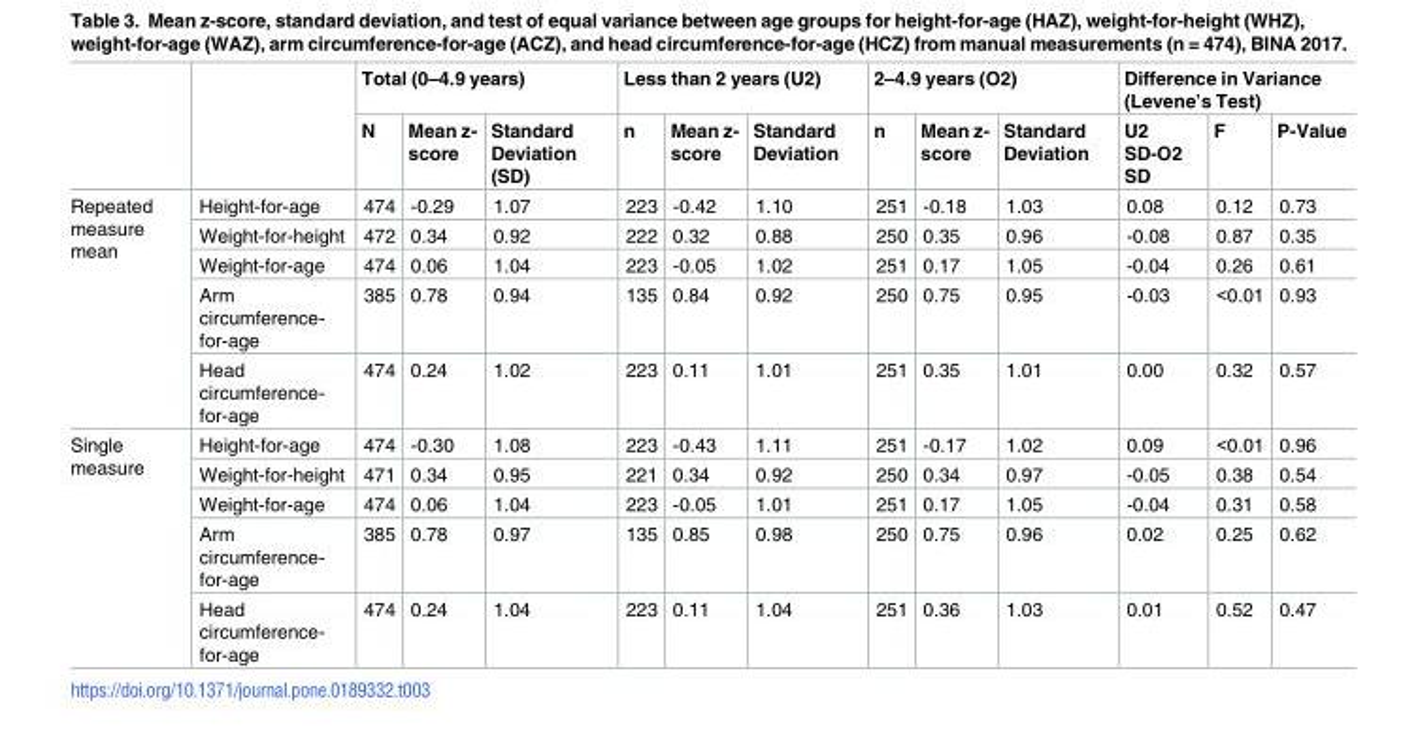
<table><thead><tr><td rowspan="2"></td><td rowspan="2"></td><td colspan="3">Total (0–4.9 years)</td><td colspan="3">Less than 2 years (U2)</td><td colspan="3">2–4.9 years (O2)</td><td colspan="3">Difference in Variance (Levene’s Test)</td></tr><tr><td>N</td><td>Mean z- score</td><td>Standard Deviation (SD)</td><td>n</td><td>Mean z- score</td><td>Standard Deviation</td><td>n</td><td>Mean z- score</td><td>Standard Deviation</td><td>U2 SD-O2 SD</td><td>F</td><td>P-Value</td></tr></thead><tbody><tr><td rowspan="5">Repeated measure mean</td><td>Height-for-age</td><td>474</td><td>-0.29</td><td>1.07</td><td>223</td><td>-0.42</td><td>1.10</td><td>251</td><td>-0.18</td><td>1.03</td><td>0.08</td><td>0.12</td><td>0.73</td></tr><tr><td>Weight-for-height</td><td>472</td><td>0.34</td><td>0.92</td><td>222</td><td>0.32</td><td>0.88</td><td>250</td><td>0.35</td><td>0.96</td><td>-0.08</td><td>0.87</td><td>0.35</td></tr><tr><td>Weight-for-age</td><td>474</td><td>0.06</td><td>1.04</td><td>223</td><td>-0.05</td><td>1.02</td><td>251</td><td>0.17</td><td>1.05</td><td>-0.04</td><td>0.26</td><td>0.61</td></tr><tr><td>Arm circumference- for-age</td><td>385</td><td>0.78</td><td>0.94</td><td>135</td><td>0.84</td><td>0.92</td><td>250</td><td>0.75</td><td>0.95</td><td>-0.03</td><td>&lt;0.01</td><td>0.93</td></tr><tr><td>Head circumference- for-age</td><td>474</td><td>0.24</td><td>1.02</td><td>223</td><td>0.11</td><td>1.01</td><td>251</td><td>0.35</td><td>1.01</td><td>0.00</td><td>0.32</td><td>0.57</td></tr><tr><td rowspan="5">Single measure</td><td>Height-for-age</td><td>474</td><td>-0.30</td><td>1.08</td><td>223</td><td>-0.43</td><td>1.11</td><td>251</td><td>-0.17</td><td>1.02</td><td>0.09</td><td>&lt;0.01</td><td>0.96</td></tr><tr><td>Weight-for-height</td><td>471</td><td>0.34</td><td>0.95</td><td>221</td><td>0.34</td><td>0.92</td><td>250</td><td>0.34</td><td>0.97</td><td>-0.05</td><td>0.38</td><td>0.54</td></tr><tr><td>Weight-for-age</td><td>474</td><td>0.06</td><td>1.04</td><td>223</td><td>-0.05</td><td>1.01</td><td>251</td><td>0.17</td><td>1.05</td><td>-0.04</td><td>0.31</td><td>0.58</td></tr><tr><td>Arm circumference- for-age</td><td>385</td><td>0.78</td><td>0.97</td><td>135</td><td>0.85</td><td>0.98</td><td>250</td><td>0.75</td><td>0.96</td><td>0.02</td><td>0.25</td><td>0.62</td></tr><tr><td>Head circumference- for-age</td><td>474</td><td>0.24</td><td>1.04</td><td>223</td><td>0.11</td><td>1.04</td><td>251</td><td>0.36</td><td>1.03</td><td>0.01</td><td>0.52</td><td>0.47</td></tr></tbody></table>